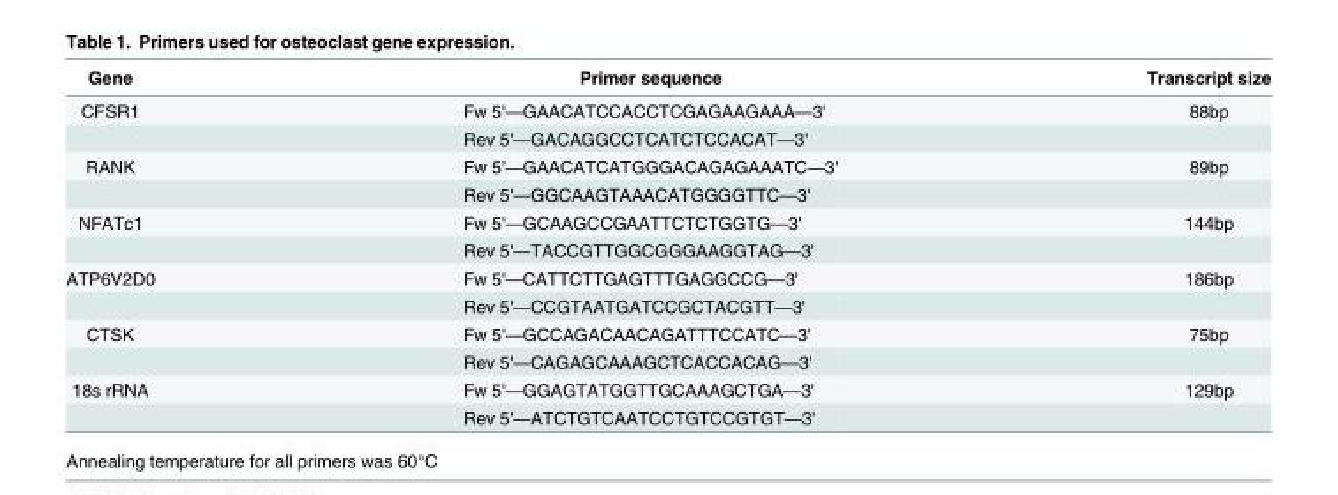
<table><thead><tr><td>Gene</td><td>Primer sequence</td><td>Transcript size</td></tr></thead><tbody><tr><td rowspan="2">CFSR1</td><td>Fw 5&#x27;—GAACATCCACCTCGAGAAGAAA—3&#x27;</td><td>88bp</td></tr><tr><td>Rev 5&#x27;—GACAGGCCTCATCTCCACAT—3&#x27;</td><td></td></tr><tr><td rowspan="2">RANK</td><td>Fw 5&#x27;—GAACATCATGGGACAGAGAAATC—3&#x27;</td><td>89bp</td></tr><tr><td>Rev 5&#x27;—GGCAAGTAAACATGGGGTTC—3&#x27;</td><td></td></tr><tr><td rowspan="2">NFATc1</td><td>Fw 5&#x27;—GCAAGCCGAATTCTCTGGTG—3&#x27;</td><td>144bp</td></tr><tr><td>Rev 5&#x27;—TACCGTTGGCGGGAAGGTAG—3&#x27;</td><td></td></tr><tr><td rowspan="2">ATP6V2D0</td><td>Fw 5&#x27;—CATTCTTGAGTTTGAGGCCG—3&#x27;</td><td>186bp</td></tr><tr><td>Rev 5&#x27;—CCGTAATGATCCGCTACGTT—3&#x27;</td><td></td></tr><tr><td rowspan="2">CTSK</td><td>Fw 5&#x27;—GCCAGACAACAGATTTCCATC—3&#x27;</td><td>75bp</td></tr><tr><td>Rev 5&#x27;—CAGAGCAAAGCTCACCACAG—3&#x27;</td><td></td></tr><tr><td rowspan="2">18s rRNA</td><td>Fw 5&#x27;—GGAGTATGGTTGCAAAGCTGA—3&#x27;</td><td>129bp</td></tr><tr><td>Rev 5&#x27;—ATCTGTCAATCCTGTCCGTGT—3&#x27;</td><td></td></tr></tbody></table>